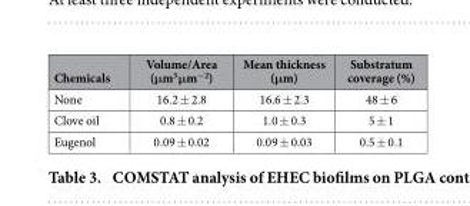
<table><thead><tr><td>Chemicals</td><td>Volume/Area (μm<sup>3</sup> μm<sup>−2</sup>)</td><td>Mean thickness (μm)</td><td>Substratum coverage (%)</td></tr></thead><tbody><tr><td>None</td><td>16.2 ± 2.8</td><td>16.6 ± 2.3</td><td>48 ± 6</td></tr><tr><td>Clove oil</td><td>0.8 ± 0.2</td><td>1.0 ± 0.3</td><td>5 ± 1</td></tr><tr><td>Eugenol</td><td>0.09 ± 0.02</td><td>0.09 ± 0.03</td><td>0.5 ± 0.1</td></tr></tbody></table>